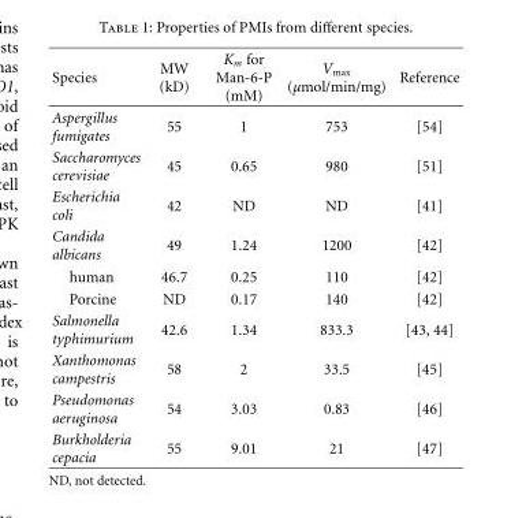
<table><thead><tr><td>Species</td><td>MW (kD)</td><td>K<sub>m</sub> for Man-6-P (mM)</td><td>V<sub>max</sub> (μmol/min/mg)</td><td>Reference</td></tr></thead><tbody><tr><td>Aspergillus fumigates</td><td>55</td><td>1</td><td>753</td><td>[54]</td></tr><tr><td>Saccharomyces cerevisiae</td><td>45</td><td>0.65</td><td>980</td><td>[51]</td></tr><tr><td>Escherichia coli</td><td>42</td><td>ND</td><td>ND</td><td>[41]</td></tr><tr><td>Candida albicans</td><td>49</td><td>1.24</td><td>1200</td><td>[42]</td></tr><tr><td>human</td><td>46.7</td><td>0.25</td><td>110</td><td>[42]</td></tr><tr><td>Porcine</td><td>ND</td><td>0.17</td><td>140</td><td>[42]</td></tr><tr><td>Salmonella typhimurium</td><td>42.6</td><td>1.34</td><td>833.3</td><td>[43, 44]</td></tr><tr><td>Xanthomonas campestris</td><td>58</td><td>2</td><td>33.5</td><td>[45]</td></tr><tr><td>Pseudomonas aeruginosa</td><td>54</td><td>3.03</td><td>0.83</td><td>[46]</td></tr><tr><td>Burkholderia cepacia</td><td>55</td><td>9.01</td><td>21</td><td>[47]</td></tr></tbody></table>